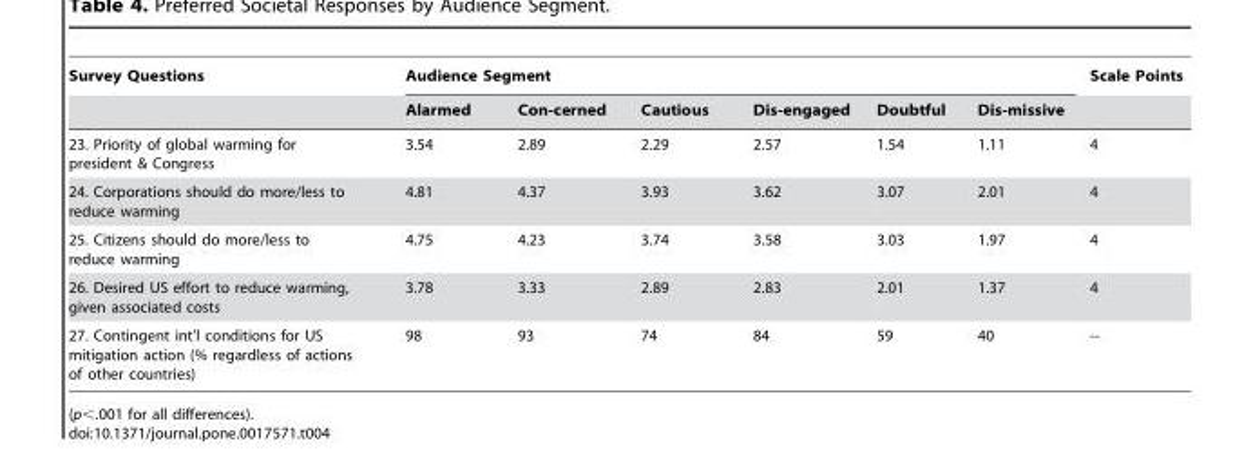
<table><thead><tr><td rowspan="2">Survey Questions</td><td colspan="6">Audience Segment</td><td rowspan="2">Scale Points</td></tr><tr><td>Alarmed</td><td>Con-cerned</td><td>Cautious</td><td>Dis-engaged</td><td>Doubtful</td><td>Dis-missive</td></tr></thead><tbody><tr><td>23. Priority of global warming for president &amp; Congress</td><td>3.54</td><td>2.89</td><td>2.29</td><td>2.57</td><td>1.54</td><td>1.11</td><td>4</td></tr><tr><td>24. Corporations should do more/less to reduce warming</td><td>4.81</td><td>4.37</td><td>3.93</td><td>3.62</td><td>3.07</td><td>2.01</td><td>4</td></tr><tr><td>25. Citizens should do more/less to reduce warming</td><td>4.75</td><td>4.23</td><td>3.74</td><td>3.58</td><td>3.03</td><td>1.97</td><td>4</td></tr><tr><td>26. Desired US effort to reduce warming, given associated costs</td><td>3.78</td><td>3.33</td><td>2.89</td><td>2.83</td><td>2.01</td><td>1.37</td><td>4</td></tr><tr><td>27. Contingent int’l conditions for US mitigation action (% regardless of actions of other countries)</td><td>98</td><td>93</td><td>74</td><td>84</td><td>59</td><td>40</td><td>--</td></tr></tbody></table>